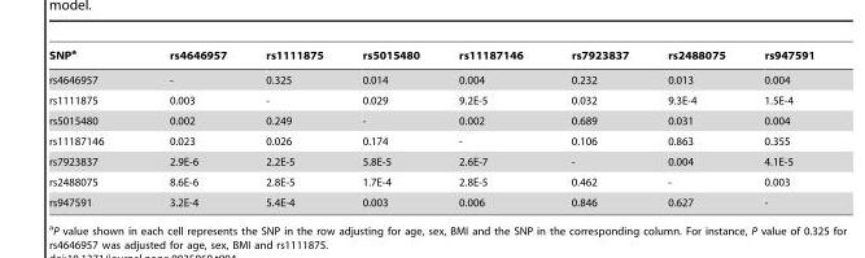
<table><thead><tr><td>SNP<sup>a</sup></td><td>rs4646957</td><td>rs1111875</td><td>rs5015480</td><td>rs11187146</td><td>rs7923837</td><td>rs2488075</td><td>rs947591</td></tr></thead><tbody><tr><td>rs4646957</td><td>-</td><td>0.325</td><td>0.014</td><td>0.004</td><td>0.232</td><td>0.013</td><td>0.004</td></tr><tr><td>rs1111875</td><td>0.003</td><td>-</td><td>0.029</td><td>9.2E-5</td><td>0.032</td><td>9.3E-4</td><td>1.5E-4</td></tr><tr><td>rs5015480</td><td>0.002</td><td>0.249</td><td>-</td><td>0.002</td><td>0.689</td><td>0.031</td><td>0.004</td></tr><tr><td>rs11187146</td><td>0.023</td><td>0.026</td><td>0.174</td><td>-</td><td>0.106</td><td>0.863</td><td>0.355</td></tr><tr><td>rs7923837</td><td>2.9E-6</td><td>2.2E-5</td><td>5.8E-5</td><td>2.6E-7</td><td>-</td><td>0.004</td><td>4.1E-5</td></tr><tr><td>rs2488075</td><td>8.6E-6</td><td>2.8E-5</td><td>1.7E-4</td><td>2.8E-5</td><td>0.462</td><td>-</td><td>0.003</td></tr><tr><td>rs947591</td><td>3.2E-4</td><td>5.4E-4</td><td>0.003</td><td>0.006</td><td>0.846</td><td>0.627</td><td>-</td></tr></tbody></table>